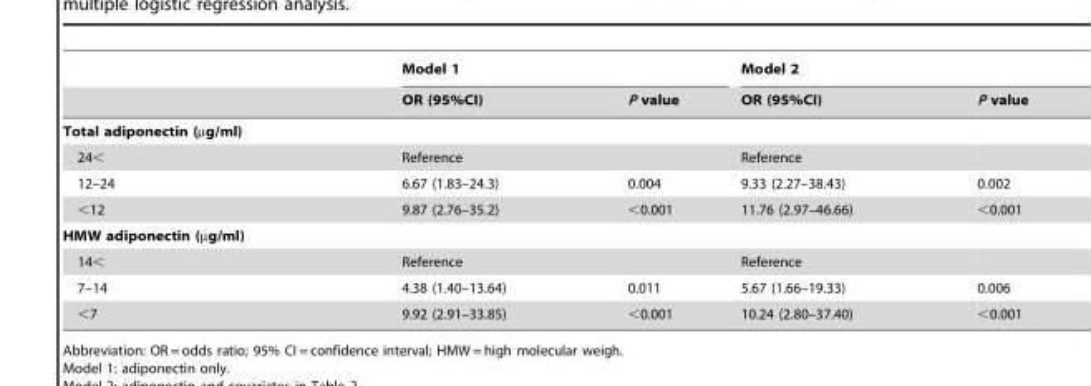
<table><thead><tr><td rowspan="2"></td><td colspan="2">Model 1</td><td colspan="2">Model 2</td></tr><tr><td>OR (95%CI)</td><td>P value</td><td>OR (95%CI)</td><td>P value</td></tr></thead><tbody><tr><td colspan="5">Total adiponectin (µg/ml)</td></tr><tr><td>24&lt;</td><td>Reference</td><td></td><td>Reference</td><td></td></tr><tr><td>12–24</td><td>6.67 (1.83–24.3)</td><td>0.004</td><td>9.33 (2.27–38.43)</td><td>0.002</td></tr><tr><td>&lt;12</td><td>9.87 (2.76–35.2)</td><td>&lt;0.001</td><td>11.76 (2.97–46.66)</td><td>&lt;0.001</td></tr><tr><td colspan="5">HMW adiponectin (µg/ml)</td></tr><tr><td>14&lt;</td><td>Reference</td><td></td><td>Reference</td><td></td></tr><tr><td>7–14</td><td>4.38 (1.40–13.64)</td><td>0.011</td><td>5.67 (1.66–19.33)</td><td>0.006</td></tr><tr><td>&lt;7</td><td>9.92 (2.91–33.85)</td><td>&lt;0.001</td><td>10.24 (2.80–37.40)</td><td>&lt;0.001</td></tr></tbody></table>